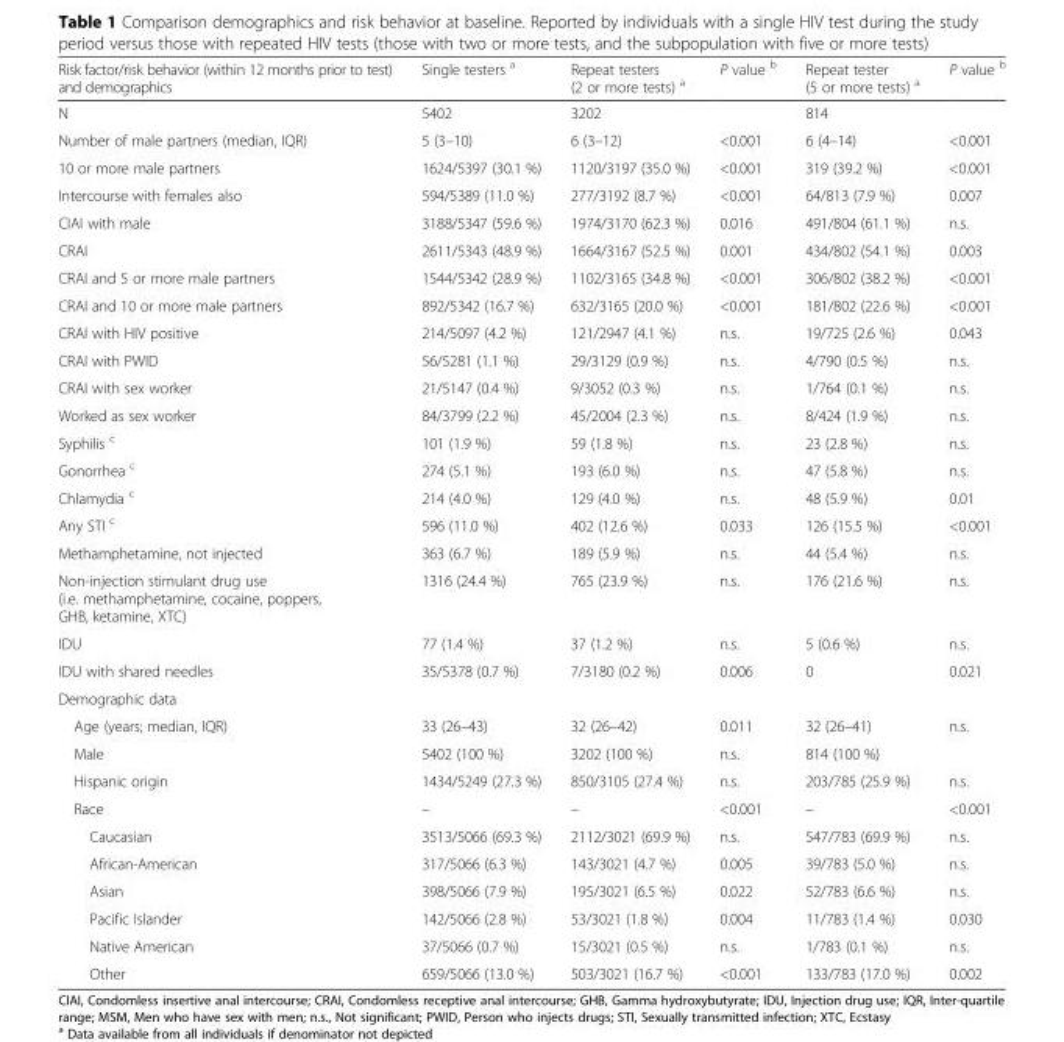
<table><thead><tr><td>Risk factor/risk behavior (within 12 months prior to test) and demographics</td><td>Single testers <sup>a</sup></td><td>Repeat testers (2 or more tests) <sup>a</sup></td><td>P value <sup>b</sup></td><td>Repeat tester (5 or more tests) <sup>a</sup></td><td>P value <sup>b</sup></td></tr></thead><tbody><tr><td>N</td><td>5402</td><td>3202</td><td></td><td>814</td><td></td></tr><tr><td>Number of male partners (median, IQR)</td><td>5 (3–10)</td><td>6 (3–12)</td><td>&lt;0.001</td><td>6 (4–14)</td><td>&lt;0.001</td></tr><tr><td>10 or more male partners</td><td>1624/5397 (30.1 %)</td><td>1120/3197 (35.0 %)</td><td>&lt;0.001</td><td>319 (39.2 %)</td><td>&lt;0.001</td></tr><tr><td>Intercourse with females also</td><td>594/5389 (11.0 %)</td><td>277/3192 (8.7 %)</td><td>&lt;0.001</td><td>64/813 (7.9 %)</td><td>0.007</td></tr><tr><td>CIAI with male</td><td>3188/5347 (59.6 %)</td><td>1974/3170 (62.3 %)</td><td>0.016</td><td>491/804 (61.1 %)</td><td>n.s.</td></tr><tr><td>CRAI</td><td>2611/5343 (48.9 %)</td><td>1664/3167 (52.5 %)</td><td>0.001</td><td>434/802 (54.1 %)</td><td>0.003</td></tr><tr><td>CRAI and 5 or more male partners</td><td>1544/5342 (28.9 %)</td><td>1102/3165 (34.8 %)</td><td>&lt;0.001</td><td>306/802 (38.2 %)</td><td>&lt;0.001</td></tr><tr><td>CRAI and 10 or more male partners</td><td>892/5342 (16.7 %)</td><td>632/3165 (20.0 %)</td><td>&lt;0.001</td><td>181/802 (22.6 %)</td><td>&lt;0.001</td></tr><tr><td>CRAI with HIV positive</td><td>214/5097 (4.2 %)</td><td>121/2947 (4.1 %)</td><td>n.s.</td><td>19/725 (2.6 %)</td><td>0.043</td></tr><tr><td>CRAI with PWID</td><td>56/5281 (1.1 %)</td><td>29/3129 (0.9 %)</td><td>n.s.</td><td>4/790 (0.5 %)</td><td>n.s.</td></tr><tr><td>CRAI with sex worker</td><td>21/5147 (0.4 %)</td><td>9/3052 (0.3 %)</td><td>n.s.</td><td>1/764 (0.1 %)</td><td>n.s.</td></tr><tr><td>Worked as sex worker</td><td>84/3799 (2.2 %)</td><td>45/2004 (2.3 %)</td><td>n.s.</td><td>8/424 (1.9 %)</td><td>n.s.</td></tr><tr><td>Syphilis <sup>c</sup></td><td>101 (1.9 %)</td><td>59 (1.8 %)</td><td>n.s.</td><td>23 (2.8 %)</td><td>n.s.</td></tr><tr><td>Gonorrhea <sup>c</sup></td><td>274 (5.1 %)</td><td>193 (6.0 %)</td><td>n.s.</td><td>47 (5.8 %)</td><td>n.s.</td></tr><tr><td>Chlamydia <sup>c</sup></td><td>214 (4.0 %)</td><td>129 (4.0 %)</td><td>n.s.</td><td>48 (5.9 %)</td><td>0.01</td></tr><tr><td>Any STI <sup>c</sup></td><td>596 (11.0 %)</td><td>402 (12.6 %)</td><td>0.033</td><td>126 (15.5 %)</td><td>&lt;0.001</td></tr><tr><td>Methamphetamine, not injected</td><td>363 (6.7 %)</td><td>189 (5.9 %)</td><td>n.s.</td><td>44 (5.4 %)</td><td>n.s.</td></tr><tr><td>Non-injection stimulant drug use (i.e. methamphetamine, cocaine, poppers, GHB, ketamine, XTC)</td><td>1316 (24.4 %)</td><td>765 (23.9 %)</td><td>n.s.</td><td>176 (21.6 %)</td><td>n.s.</td></tr><tr><td>IDU</td><td>77 (1.4 %)</td><td>37 (1.2 %)</td><td>n.s.</td><td>5 (0.6 %)</td><td>n.s.</td></tr><tr><td>IDU with shared needles</td><td>35/5378 (0.7 %)</td><td>7/3180 (0.2 %)</td><td>0.006</td><td>0</td><td>0.021</td></tr><tr><td colspan="6">Demographic data</td></tr><tr><td>Age (years; median, IQR)</td><td>33 (26–43)</td><td>32 (26–42)</td><td>0.011</td><td>32 (26–41)</td><td>n.s.</td></tr><tr><td>Male</td><td>5402 (100 %)</td><td>3202 (100 %)</td><td>n.s.</td><td>814 (100 %)</td><td></td></tr><tr><td>Hispanic origin</td><td>1434/5249 (27.3 %)</td><td>850/3105 (27.4 %)</td><td>n.s.</td><td>203/785 (25.9 %)</td><td>n.s.</td></tr><tr><td>Race</td><td>–</td><td>–</td><td>&lt;0.001</td><td>–</td><td>&lt;0.001</td></tr><tr><td>Caucasian</td><td>3513/5066 (69.3 %)</td><td>2112/3021 (69.9 %)</td><td>n.s.</td><td>547/783 (69.9 %)</td><td>n.s.</td></tr><tr><td>African-American</td><td>317/5066 (6.3 %)</td><td>143/3021 (4.7 %)</td><td>0.005</td><td>39/783 (5.0 %)</td><td>n.s.</td></tr><tr><td>Asian</td><td>398/5066 (7.9 %)</td><td>195/3021 (6.5 %)</td><td>0.022</td><td>52/783 (6.6 %)</td><td>n.s.</td></tr><tr><td>Pacific Islander</td><td>142/5066 (2.8 %)</td><td>53/3021 (1.8 %)</td><td>0.004</td><td>11/783 (1.4 %)</td><td>0.030</td></tr><tr><td>Native American</td><td>37/5066 (0.7 %)</td><td>15/3021 (0.5 %)</td><td>n.s.</td><td>1/783 (0.1 %)</td><td>n.s.</td></tr><tr><td>Other</td><td>659/5066 (13.0 %)</td><td>503/3021 (16.7 %)</td><td>&lt;0.001</td><td>133/783 (17.0 %)</td><td>0.002</td></tr></tbody></table>